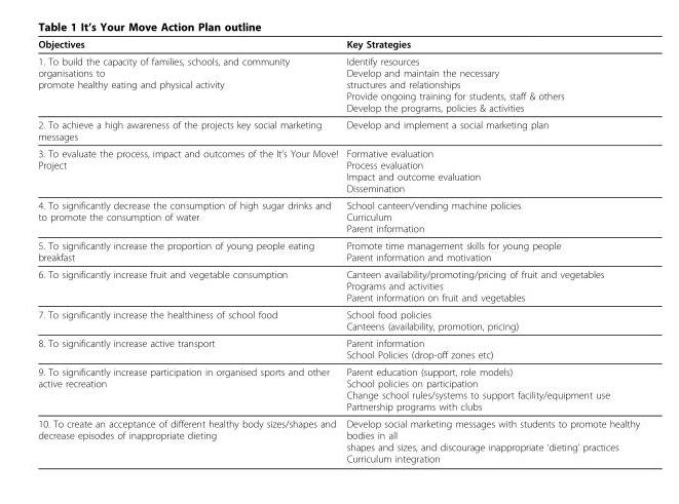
<table><thead><tr><td>Objectives</td><td>Key Strategies</td></tr></thead><tbody><tr><td>1. To build the capacity of families, schools, and community organisations to promote healthy eating and physical activity</td><td>Identify resources Develop and maintain the necessary structures and relationships Provide ongoing training for students, staff &amp; others Develop the programs, policies &amp; activities</td></tr><tr><td>2. To achieve a high awareness of the projects key social marketing messages</td><td>Develop and implement a social marketing plan</td></tr><tr><td>3. To evaluate the process, impact and outcomes of the It’s Your Move! Project</td><td>Formative evaluation Process evaluation Impact and outcome evaluation Dissemination</td></tr><tr><td>4. To significantly decrease the consumption of high sugar drinks and to promote the consumption of water</td><td>School canteen/vending machine policies Curriculum Parent information</td></tr><tr><td>5. To significantly increase the proportion of young people eating breakfast</td><td>Promote time management skills for young people Parent information and motivation</td></tr><tr><td>6. To significantly increase fruit and vegetable consumption</td><td>Canteen availability/promoting/pricing of fruit and vegetables Programs and activities Parent information on fruit and vegetables</td></tr><tr><td>7. To significantly increase the healthiness of school food</td><td>School food policies Canteens (availability, promotion, pricing)</td></tr><tr><td>8. To significantly increase active transport</td><td>Parent information School Policies (drop-off zones etc)</td></tr><tr><td>9. To significantly increase participation in organised sports and other active recreation</td><td>Parent education (support, role models) School policies on participation Change school rules/systems to support facility/equipment use Partnership programs with clubs</td></tr><tr><td>10. To create an acceptance of different healthy body sizes/shapes and decrease episodes of inappropriate dieting</td><td>Develop social marketing messages with students to promote healthy bodies in all shapes and sizes, and discourage inappropriate ‘dieting’ practices Curriculum integration</td></tr></tbody></table>